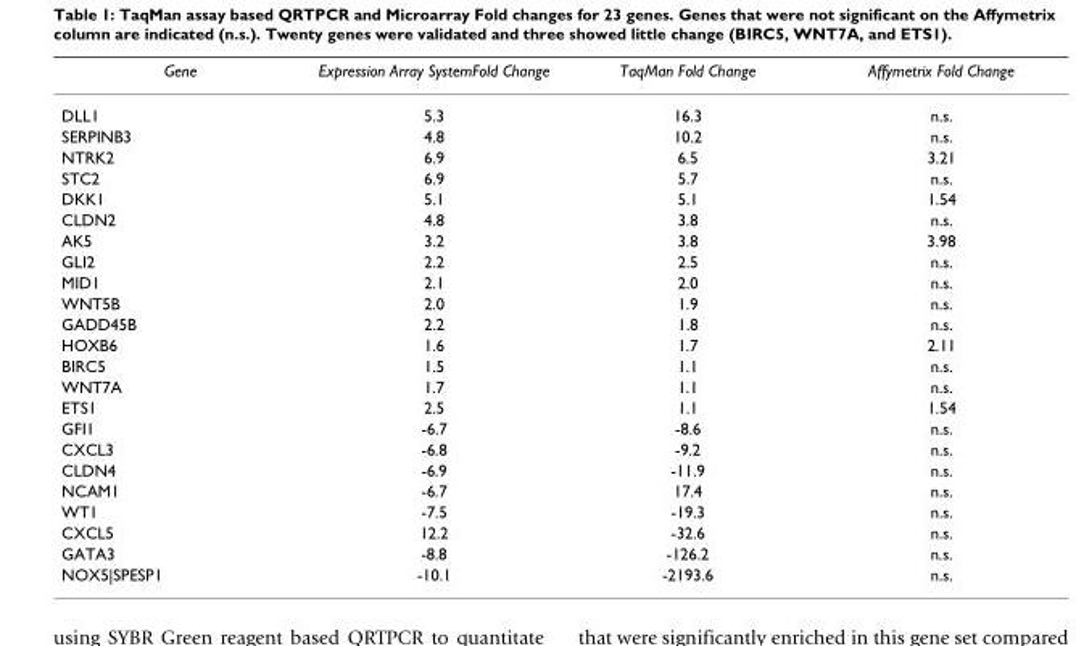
<table><thead><tr><td>Gene</td><td>Expression Array SystemFold Change</td><td>TaqMan Fold Change</td><td>Affymetrix Fold Change</td></tr></thead><tbody><tr><td>DLL1</td><td>5.3</td><td>16.3</td><td>n.s.</td></tr><tr><td>SERPINB3</td><td>4.8</td><td>10.2</td><td>n.s.</td></tr><tr><td>NTRK2</td><td>6.9</td><td>6.5</td><td>3.21</td></tr><tr><td>STC2</td><td>6.9</td><td>5.7</td><td>n.s.</td></tr><tr><td>DKK1</td><td>5.1</td><td>5.1</td><td>1.54</td></tr><tr><td>CLDN2</td><td>4.8</td><td>3.8</td><td>n.s.</td></tr><tr><td>AK5</td><td>3.2</td><td>3.8</td><td>3.98</td></tr><tr><td>GLI2</td><td>2.2</td><td>2.5</td><td>n.s.</td></tr><tr><td>MID1</td><td>2.1</td><td>2.0</td><td>n.s.</td></tr><tr><td>WNT5B</td><td>2.0</td><td>1.9</td><td>n.s.</td></tr><tr><td>GADD45B</td><td>2.2</td><td>1.8</td><td>n.s.</td></tr><tr><td>HOXB6</td><td>1.6</td><td>1.7</td><td>2.11</td></tr><tr><td>BIRC5</td><td>1.5</td><td>1.1</td><td>n.s.</td></tr><tr><td>WNT7A</td><td>1.7</td><td>1.1</td><td>n.s.</td></tr><tr><td>ETS1</td><td>2.5</td><td>1.1</td><td>1.54</td></tr><tr><td>GFI1</td><td>-6.7</td><td>-8.6</td><td>n.s.</td></tr><tr><td>CXCL3</td><td>-6.8</td><td>-9.2</td><td>n.s.</td></tr><tr><td>CLDN4</td><td>-6.9</td><td>-11.9</td><td>n.s.</td></tr><tr><td>NCAM1</td><td>-6.7</td><td>17.4</td><td>n.s.</td></tr><tr><td>WT1</td><td>-7.5</td><td>-19.3</td><td>n.s.</td></tr><tr><td>CXCL5</td><td>12.2</td><td>-32.6</td><td>n.s.</td></tr><tr><td>GATA3</td><td>-8.8</td><td>-126.2</td><td>n.s.</td></tr><tr><td>NOX5|SPESP1</td><td>-10.1</td><td>-2193.6</td><td>n.s.</td></tr></tbody></table>